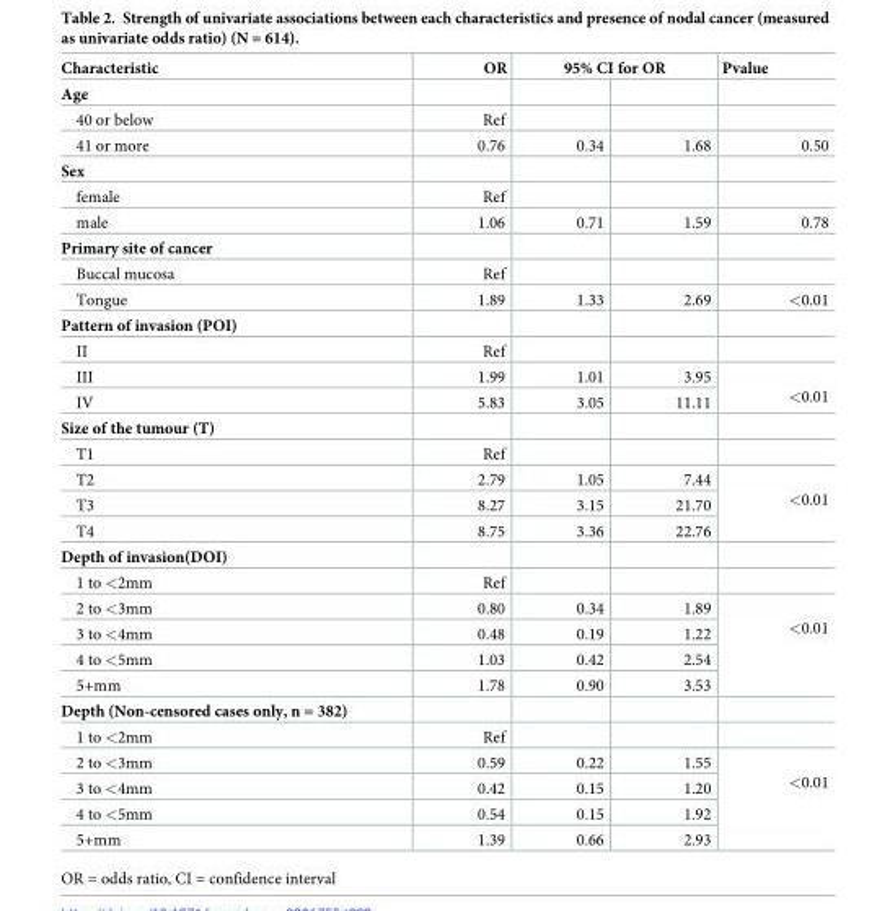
<table><thead><tr><td rowspan="2">Characteristic Age</td><td rowspan="2">OR</td><td colspan="2">95% CI for OR</td><td rowspan="2">Pvalue</td></tr><tr><td></td><td></td></tr></thead><tbody><tr><td>40 or below</td><td>Ref</td><td></td><td></td><td></td></tr><tr><td>41 or more</td><td>0.76</td><td>0.34</td><td>1.68</td><td>0.50</td></tr><tr><td colspan="5">Sex</td></tr><tr><td>female</td><td>Ref</td><td></td><td></td><td></td></tr><tr><td>male</td><td>1.06</td><td>0.71</td><td>1.59</td><td>0.78</td></tr><tr><td colspan="5">Primary site of cancer</td></tr><tr><td>Buccal mucosa</td><td>Ref</td><td></td><td></td><td></td></tr><tr><td>Tongue</td><td>1.89</td><td>1.33</td><td>2.69</td><td>&lt;0.01</td></tr><tr><td colspan="5">Pattern of invasion (POI)</td></tr><tr><td>II</td><td>Ref</td><td></td><td></td><td></td></tr><tr><td>III</td><td>1.99</td><td>1.01</td><td>3.95</td><td rowspan="2">&lt;0.01</td></tr><tr><td>IV</td><td>5.83</td><td>3.05</td><td>11.11</td></tr><tr><td colspan="5">Size of the tumour (T)</td></tr><tr><td>T1</td><td>Ref</td><td></td><td></td><td></td></tr><tr><td>T2</td><td>2.79</td><td>1.05</td><td>7.44</td><td rowspan="3">&lt;0.01</td></tr><tr><td>T3</td><td>8.27</td><td>3.15</td><td>21.70</td></tr><tr><td>T4</td><td>8.75</td><td>3.36</td><td>22.76</td></tr><tr><td colspan="5">Depth of invasion(DOI)</td></tr><tr><td>1 to &lt;2mm</td><td>Ref</td><td></td><td></td><td></td></tr><tr><td>2 to &lt;3mm</td><td>0.80</td><td>0.34</td><td>1.89</td><td rowspan="4">&lt;0.01</td></tr><tr><td>3 to &lt;4mm</td><td>0.48</td><td>0.19</td><td>1.22</td></tr><tr><td>4 to &lt;5mm</td><td>1.03</td><td>0.42</td><td>2.54</td></tr><tr><td>5+mm</td><td>1.78</td><td>0.90</td><td>3.53</td></tr><tr><td colspan="5">Depth (Non-censored cases only, n = 382)</td></tr><tr><td>1 to &lt;2mm</td><td>Ref</td><td></td><td></td><td></td></tr><tr><td>2 to &lt;3mm</td><td>0.59</td><td>0.22</td><td>1.55</td><td rowspan="4">&lt;0.01</td></tr><tr><td>3 to &lt;4mm</td><td>0.42</td><td>0.15</td><td>1.20</td></tr><tr><td>4 to &lt;5mm</td><td>0.54</td><td>0.15</td><td>1.92</td></tr><tr><td>5+mm</td><td>1.39</td><td>0.66</td><td>2.93</td></tr></tbody></table>